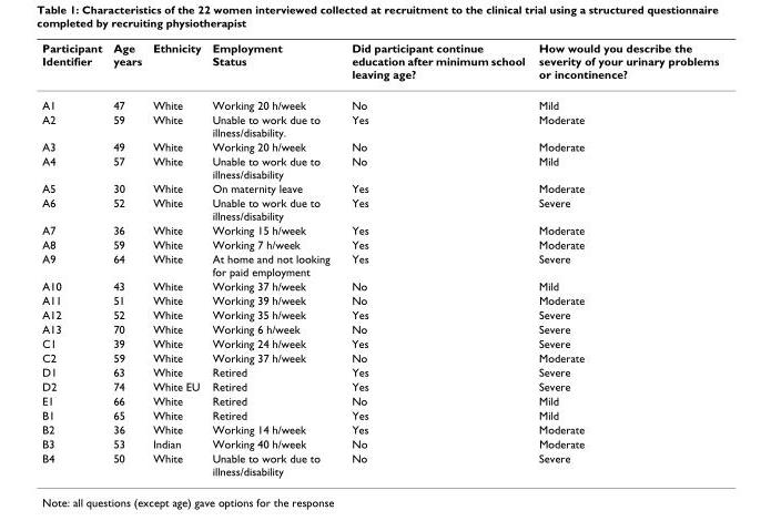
<table><thead><tr><td>Participant Identifier</td><td>Age years</td><td>Ethnicity</td><td>Employment Status</td><td>Did participant continue education after minimum school leaving age?</td><td>How would you describe the severity of your urinary problems or incontinence?</td></tr></thead><tbody><tr><td>A1</td><td>47</td><td>White</td><td>Working 20 h/week</td><td>No</td><td>Mild</td></tr><tr><td>A2</td><td>59</td><td>White</td><td>Unable to work due to illness/disability.</td><td>Yes</td><td>Moderate</td></tr><tr><td>A3</td><td>49</td><td>White</td><td>Working 20 h/week</td><td>No</td><td>Moderate</td></tr><tr><td>A4</td><td>57</td><td>White</td><td>Unable to work due to illness/disability</td><td>No</td><td>Mild</td></tr><tr><td>A5</td><td>30</td><td>White</td><td>On maternity leave</td><td>Yes</td><td>Moderate</td></tr><tr><td>A6</td><td>52</td><td>White</td><td>Unable to work due to illness/disability</td><td>Yes</td><td>Severe</td></tr><tr><td>A7</td><td>36</td><td>White</td><td>Working 15 h/week</td><td>Yes</td><td>Moderate</td></tr><tr><td>A8</td><td>59</td><td>White</td><td>Working 7 h/week</td><td>Yes</td><td>Moderate</td></tr><tr><td>A9</td><td>64</td><td>White</td><td>At home and not looking for paid employment</td><td>Yes</td><td>Severe</td></tr><tr><td>A10</td><td>43</td><td>White</td><td>Working 37 h/week</td><td>No</td><td>Mild</td></tr><tr><td>A11</td><td>51</td><td>White</td><td>Working 39 h/week</td><td>No</td><td>Moderate</td></tr><tr><td>A12</td><td>52</td><td>White</td><td>Working 35 h/week</td><td>Yes</td><td>Severe</td></tr><tr><td>A13</td><td>70</td><td>White</td><td>Working 6 h/week</td><td>No</td><td>Severe</td></tr><tr><td>C1</td><td>39</td><td>White</td><td>Working 24 h/week</td><td>Yes</td><td>Severe</td></tr><tr><td>C2</td><td>59</td><td>White</td><td>Working 37 h/week</td><td>No</td><td>Moderate</td></tr><tr><td>D1</td><td>63</td><td>White</td><td>Retired</td><td>Yes</td><td>Severe</td></tr><tr><td>D2</td><td>74</td><td>White EU</td><td>Retired</td><td>Yes</td><td>Severe</td></tr><tr><td>E1</td><td>66</td><td>White</td><td>Retired</td><td>No</td><td>Mild</td></tr><tr><td>B1</td><td>65</td><td>White</td><td>Retired</td><td>Yes</td><td>Mild</td></tr><tr><td>B2</td><td>36</td><td>White</td><td>Working 14 h/week</td><td>Yes</td><td>Moderate</td></tr><tr><td>B3</td><td>53</td><td>Indian</td><td>Working 40 h/week</td><td>No</td><td>Moderate</td></tr><tr><td>B4</td><td>50</td><td>White</td><td>Unable to work due to illness/disability</td><td>No</td><td>Severe</td></tr></tbody></table>